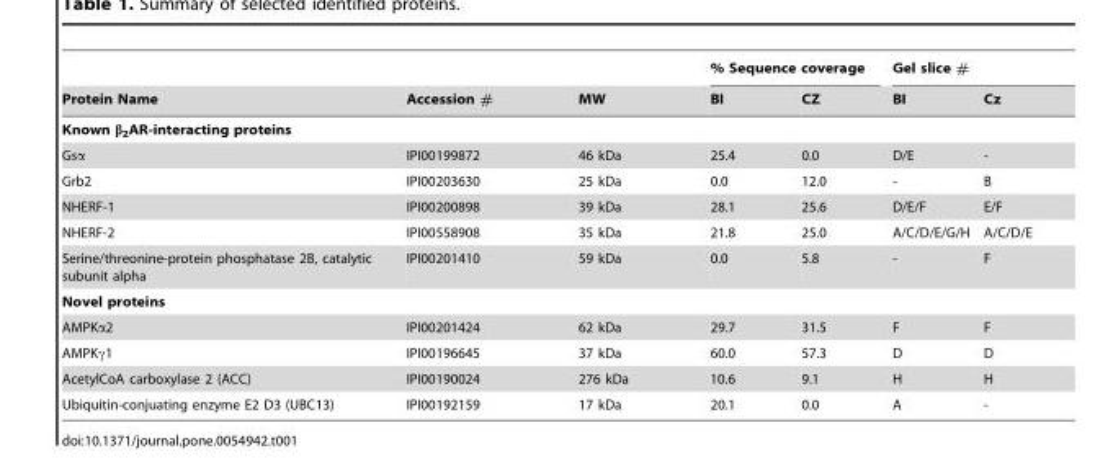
<table><thead><tr><td rowspan="2">Protein Name</td><td rowspan="2">Accession #</td><td rowspan="2">MW</td><td colspan="2">% Sequence coverage</td><td colspan="2">Gel slice #</td></tr><tr><td>BI</td><td>CZ</td><td>BI</td><td>Cz</td></tr></thead><tbody><tr><td colspan="7">Known β<sub>2</sub>AR-interacting proteins</td></tr><tr><td>Gsα</td><td>IPI00199872</td><td>46 kDa</td><td>25.4</td><td>0.0</td><td>D/E</td><td>-</td></tr><tr><td>Grb2</td><td>IPI00203630</td><td>25 kDa</td><td>0.0</td><td>12.0</td><td>-</td><td>B</td></tr><tr><td>NHERF-1</td><td>IPI00200898</td><td>39 kDa</td><td>28.1</td><td>25.6</td><td>D/E/F</td><td>E/F</td></tr><tr><td>NHERF-2</td><td>IPI00558908</td><td>35 kDa</td><td>21.8</td><td>25.0</td><td>A/C/D/E/G/H</td><td>A/C/D/E</td></tr><tr><td>Serine/threonine-protein phosphatase 2B, catalytic subunit alpha</td><td>IPI00201410</td><td>59 kDa</td><td>0.0</td><td>5.8</td><td>-</td><td>F</td></tr><tr><td colspan="7">Novel proteins</td></tr><tr><td>AMPKα2</td><td>IPI00201424</td><td>62 kDa</td><td>29.7</td><td>31.5</td><td>F</td><td>F</td></tr><tr><td>AMPKγ1</td><td>IPI00196645</td><td>37 kDa</td><td>60.0</td><td>57.3</td><td>D</td><td>D</td></tr><tr><td>AcetylCoA carboxylase 2 (ACC)</td><td>IPI00190024</td><td>276 kDa</td><td>10.6</td><td>9.1</td><td>H</td><td>H</td></tr><tr><td>Ubiquitin-conjuating enzyme E2 D3 (UBC13)</td><td>IPI00192159</td><td>17 kDa</td><td>20.1</td><td>0.0</td><td>A</td><td>-</td></tr></tbody></table>